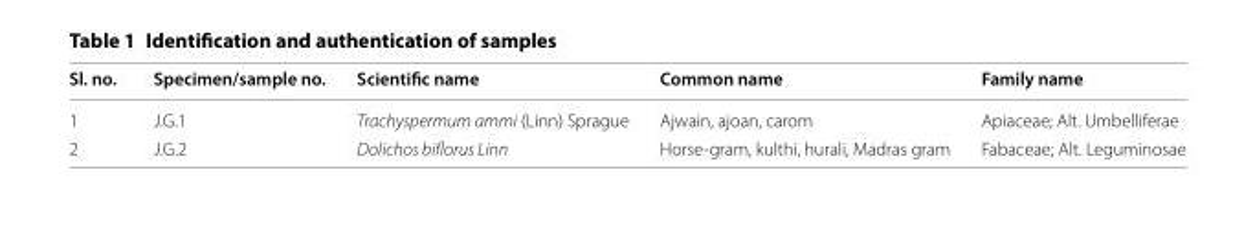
<table><thead><tr><td>Sl. no.</td><td>Specimen/sample no.</td><td>Scientific name</td><td>Common name</td><td>Family name</td></tr></thead><tbody><tr><td>1</td><td>J.G.1</td><td>Trachyspermum ammi (Linn) Sprague</td><td>Ajwain, ajoan, carom</td><td>Apiaceae; Alt. Umbelliferae</td></tr><tr><td>2</td><td>J.G.2</td><td>Dolichos biflorus Linn</td><td>Horse-gram, kulthi, hurali, Madras gram</td><td>Fabaceae; Alt. Leguminosae</td></tr></tbody></table>